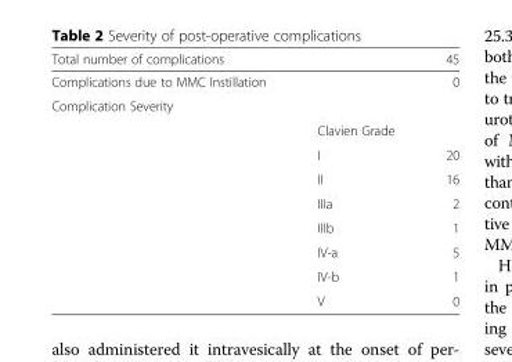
<table><thead><tr><td>Total number of complications</td><td></td><td>45</td></tr></thead><tbody><tr><td>Complications due to MMC Instillation</td><td></td><td>0</td></tr><tr><td colspan="3">Complication Severity</td></tr><tr><td></td><td>Clavien Grade</td><td></td></tr><tr><td></td><td>I</td><td>20</td></tr><tr><td></td><td>II</td><td>16</td></tr><tr><td></td><td>IIIa</td><td>2</td></tr><tr><td></td><td>IIIb</td><td>1</td></tr><tr><td></td><td>IV-a</td><td>5</td></tr><tr><td></td><td>IV-b</td><td>1</td></tr><tr><td></td><td>V</td><td>0</td></tr></tbody></table>